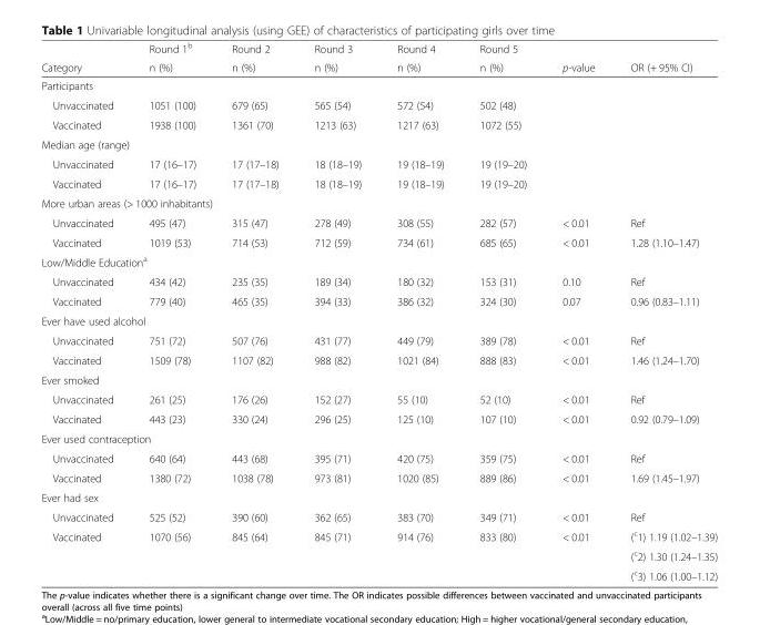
<table><thead><tr><td rowspan="2">Category</td><td rowspan="2">Round 1<sup>b</sup> n (%)</td><td rowspan="2">Round 2 n (%)</td><td rowspan="2">Round 3 n (%)</td><td rowspan="2">Round 4 n (%)</td><td rowspan="2">Round 5 n (%)</td><td rowspan="2">p-value</td><td rowspan="2">OR (+ 95% CI)</td></tr><tr></tr></thead><tbody><tr><td colspan="8">Participants</td></tr><tr><td>Unvaccinated</td><td>1051 (100)</td><td>679 (65)</td><td>565 (54)</td><td>572 (54)</td><td>502 (48)</td><td></td><td></td></tr><tr><td>Vaccinated</td><td>1938 (100)</td><td>1361 (70)</td><td>1213 (63)</td><td>1217 (63)</td><td>1072 (55)</td><td></td><td></td></tr><tr><td colspan="8">Median age (range)</td></tr><tr><td>Unvaccinated</td><td>17 (16–17)</td><td>17 (17–18)</td><td>18 (18–19)</td><td>19 (18–19)</td><td>19 (19–20)</td><td></td><td></td></tr><tr><td>Vaccinated</td><td>17 (16–17)</td><td>17 (17–18)</td><td>18 (18–19)</td><td>19 (18–19)</td><td>19 (19–20)</td><td></td><td></td></tr><tr><td colspan="8">More urban areas (&gt; 1000 inhabitants)</td></tr><tr><td>Unvaccinated</td><td>495 (47)</td><td>315 (47)</td><td>278 (49)</td><td>308 (55)</td><td>282 (57)</td><td>&lt; 0.01</td><td>Ref</td></tr><tr><td>Vaccinated</td><td>1019 (53)</td><td>714 (53)</td><td>712 (59)</td><td>734 (61)</td><td>685 (65)</td><td>&lt; 0.01</td><td>1.28 (1.10–1.47)</td></tr><tr><td colspan="8">Low/Middle Education<sup>a</sup></td></tr><tr><td>Unvaccinated</td><td>434 (42)</td><td>235 (35)</td><td>189 (34)</td><td>180 (32)</td><td>153 (31)</td><td>0.10</td><td>Ref</td></tr><tr><td>Vaccinated</td><td>779 (40)</td><td>465 (35)</td><td>394 (33)</td><td>386 (32)</td><td>324 (30)</td><td>0.07</td><td>0.96 (0.83–1.11)</td></tr><tr><td colspan="8">Ever have used alcohol</td></tr><tr><td>Unvaccinated</td><td>751 (72)</td><td>507 (76)</td><td>431 (77)</td><td>449 (79)</td><td>389 (78)</td><td>&lt; 0.01</td><td>Ref</td></tr><tr><td>Vaccinated</td><td>1509 (78)</td><td>1107 (82)</td><td>988 (82)</td><td>1021 (84)</td><td>888 (83)</td><td>&lt; 0.01</td><td>1.46 (1.24–1.70)</td></tr><tr><td colspan="8">Ever smoked</td></tr><tr><td>Unvaccinated</td><td>261 (25)</td><td>176 (26)</td><td>152 (27)</td><td>55 (10)</td><td>52 (10)</td><td>&lt; 0.01</td><td>Ref</td></tr><tr><td>Vaccinated</td><td>443 (23)</td><td>330 (24)</td><td>296 (25)</td><td>125 (10)</td><td>107 (10)</td><td>&lt; 0.01</td><td>0.92 (0.79–1.09)</td></tr><tr><td colspan="8">Ever used contraception</td></tr><tr><td>Unvaccinated</td><td>640 (64)</td><td>443 (68)</td><td>395 (71)</td><td>420 (75)</td><td>359 (75)</td><td>&lt; 0.01</td><td>Ref</td></tr><tr><td>Vaccinated</td><td>1380 (72)</td><td>1038 (78)</td><td>973 (81)</td><td>1020 (85)</td><td>889 (86)</td><td>&lt; 0.01</td><td>1.69 (1.45–1.97)</td></tr><tr><td colspan="8">Ever had sex</td></tr><tr><td>Unvaccinated</td><td>525 (52)</td><td>390 (60)</td><td>362 (65)</td><td>383 (70)</td><td>349 (71)</td><td>&lt; 0.01</td><td>Ref</td></tr><tr><td rowspan="3">Vaccinated</td><td>1070 (56)</td><td>845 (64)</td><td>845 (71)</td><td>914 (76)</td><td>833 (80)</td><td>&lt; 0.01</td><td>(<sup>c</sup>1) 1.19 (1.02–1.39)</td></tr><tr><td></td><td></td><td></td><td></td><td></td><td></td><td>(<sup>c</sup>2) 1.30 (1.24–1.35)</td></tr><tr><td></td><td></td><td></td><td></td><td></td><td></td><td>(<sup>c</sup>3) 1.06 (1.00–1.12)</td></tr></tbody></table>